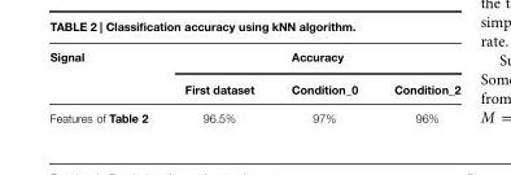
<table><thead><tr><td rowspan="2">Signal</td><td colspan="3">Accuracy</td></tr><tr><td>First dataset</td><td>Condition_0</td><td>Condition_2</td></tr></thead><tbody><tr><td>Features of Table 2</td><td>96.5%</td><td>97%</td><td>96%</td></tr></tbody></table>